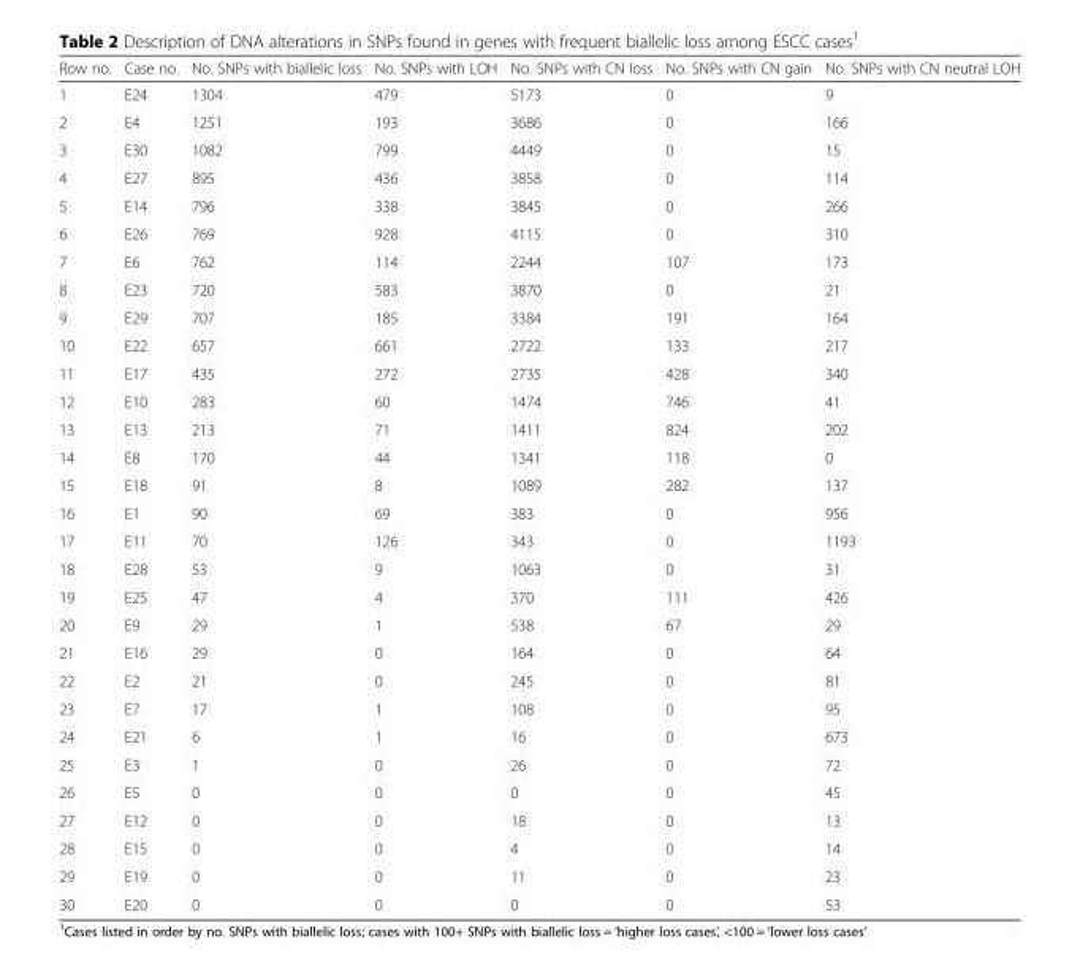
<table><thead><tr><td>Row no.</td><td>Case no.</td><td>No. SNPs with biallelic loss</td><td>No. SNPs with LOH</td><td>No. SNPs with CN loss</td><td>No. SNPs with CN gain</td><td>No. SNPs with CN neutral LOH</td></tr></thead><tbody><tr><td>1</td><td>E24</td><td>1304</td><td>479</td><td>5173</td><td>0</td><td>9</td></tr><tr><td>2</td><td>E4</td><td>1251</td><td>193</td><td>3686</td><td>0</td><td>166</td></tr><tr><td>3</td><td>E30</td><td>1082</td><td>799</td><td>4449</td><td>0</td><td>15</td></tr><tr><td>4</td><td>E27</td><td>895</td><td>436</td><td>3858</td><td>0</td><td>114</td></tr><tr><td>5</td><td>E14</td><td>796</td><td>338</td><td>3845</td><td>0</td><td>266</td></tr><tr><td>6</td><td>E26</td><td>769</td><td>928</td><td>4115</td><td>0</td><td>310</td></tr><tr><td>7</td><td>E6</td><td>762</td><td>114</td><td>2244</td><td>107</td><td>173</td></tr><tr><td>8</td><td>E23</td><td>720</td><td>583</td><td>3870</td><td>0</td><td>21</td></tr><tr><td>9</td><td>E29</td><td>707</td><td>185</td><td>3384</td><td>191</td><td>164</td></tr><tr><td>10</td><td>E22</td><td>657</td><td>661</td><td>2722</td><td>133</td><td>217</td></tr><tr><td>11</td><td>E17</td><td>435</td><td>272</td><td>2735</td><td>428</td><td>340</td></tr><tr><td>12</td><td>E10</td><td>283</td><td>60</td><td>1474</td><td>746</td><td>41</td></tr><tr><td>13</td><td>E13</td><td>213</td><td>71</td><td>1411</td><td>824</td><td>202</td></tr><tr><td>14</td><td>E8</td><td>170</td><td>44</td><td>1341</td><td>118</td><td>0</td></tr><tr><td>15</td><td>E18</td><td>91</td><td>8</td><td>1089</td><td>282</td><td>137</td></tr><tr><td>16</td><td>E1</td><td>90</td><td>69</td><td>383</td><td>0</td><td>956</td></tr><tr><td>17</td><td>E11</td><td>70</td><td>126</td><td>343</td><td>0</td><td>1193</td></tr><tr><td>18</td><td>E28</td><td>53</td><td>9</td><td>1063</td><td>0</td><td>31</td></tr><tr><td>19</td><td>E25</td><td>47</td><td>4</td><td>370</td><td>111</td><td>426</td></tr><tr><td>20</td><td>E9</td><td>29</td><td>1</td><td>538</td><td>67</td><td>29</td></tr><tr><td>21</td><td>E16</td><td>29</td><td>0</td><td>164</td><td>0</td><td>64</td></tr><tr><td>22</td><td>E2</td><td>21</td><td>0</td><td>245</td><td>0</td><td>81</td></tr><tr><td>23</td><td>E7</td><td>17</td><td>1</td><td>108</td><td>0</td><td>95</td></tr><tr><td>24</td><td>E21</td><td>6</td><td>1</td><td>16</td><td>0</td><td>673</td></tr><tr><td>25</td><td>E3</td><td>1</td><td>0</td><td>26</td><td>0</td><td>72</td></tr><tr><td>26</td><td>E5</td><td>0</td><td>0</td><td>0</td><td>0</td><td>45</td></tr><tr><td>27</td><td>E12</td><td>0</td><td>0</td><td>18</td><td>0</td><td>13</td></tr><tr><td>28</td><td>E15</td><td>0</td><td>0</td><td>4</td><td>0</td><td>14</td></tr><tr><td>29</td><td>E19</td><td>0</td><td>0</td><td>11</td><td>0</td><td>23</td></tr><tr><td>30</td><td>E20</td><td>0</td><td>0</td><td>0</td><td>0</td><td>53</td></tr></tbody></table>